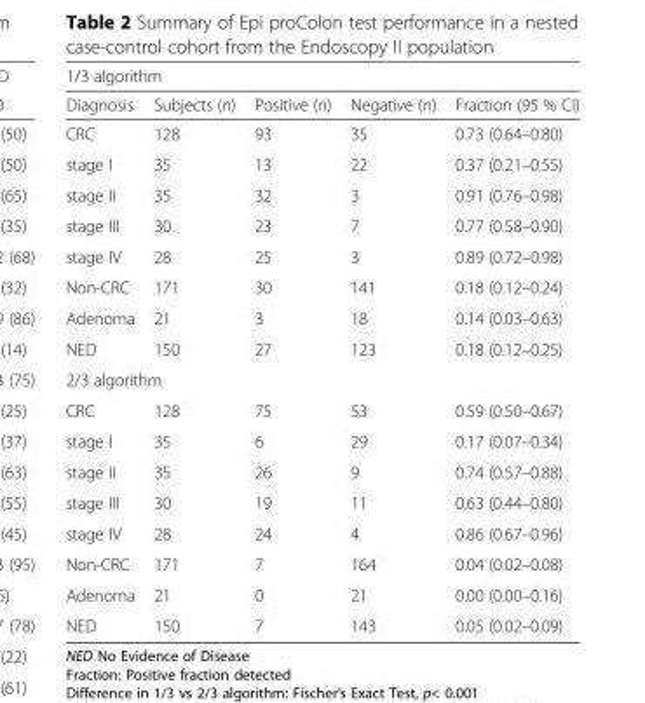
<table><thead><tr><td colspan="5">1/3 algorithm</td></tr><tr><td>Diagnosis</td><td>Subjects (n)</td><td>Positive (n)</td><td>Negative (n)</td><td>Fraction (95 % CI)</td></tr></thead><tbody><tr><td>CRC</td><td>128</td><td>93</td><td>35</td><td>0.73 (0.64–0.80)</td></tr><tr><td>stage I</td><td>35</td><td>13</td><td>22</td><td>0.37 (0.21–0.55)</td></tr><tr><td>stage II</td><td>35</td><td>32</td><td>3</td><td>0.91 (0.76–0.98)</td></tr><tr><td>stage III</td><td>30</td><td>23</td><td>7</td><td>0.77 (0.58–0.90)</td></tr><tr><td>stage IV</td><td>28</td><td>25</td><td>3</td><td>0.89 (0.72–0.98)</td></tr><tr><td>Non-CRC</td><td>171</td><td>30</td><td>141</td><td>0.18 (0.12–0.24)</td></tr><tr><td>Adenoma</td><td>21</td><td>3</td><td>18</td><td>0.14 (0.03–0.63)</td></tr><tr><td>NED</td><td>150</td><td>27</td><td>123</td><td>0.18 (0.12–0.25)</td></tr><tr><td colspan="5">2/3 algorithm</td></tr><tr><td>CRC</td><td>128</td><td>75</td><td>53</td><td>0.59 (0.50–0.67)</td></tr><tr><td>stage I</td><td>35</td><td>6</td><td>29</td><td>0.17 (0.07–0.34)</td></tr><tr><td>stage II</td><td>35</td><td>26</td><td>9</td><td>0.74 (0.57–0.88)</td></tr><tr><td>stage III</td><td>30</td><td>19</td><td>11</td><td>0.63 (0.44–0.80)</td></tr><tr><td>stage IV</td><td>28</td><td>24</td><td>4</td><td>0.86 (0.67–0.96)</td></tr><tr><td>Non-CRC</td><td>171</td><td>7</td><td>164</td><td>0.04 (0.02–0.08)</td></tr><tr><td>Adenoma</td><td>21</td><td>0</td><td>21</td><td>0.00 (0.00–0.16)</td></tr><tr><td>NED</td><td>150</td><td>7</td><td>143</td><td>0.05 (0.02–0.09)</td></tr></tbody></table>